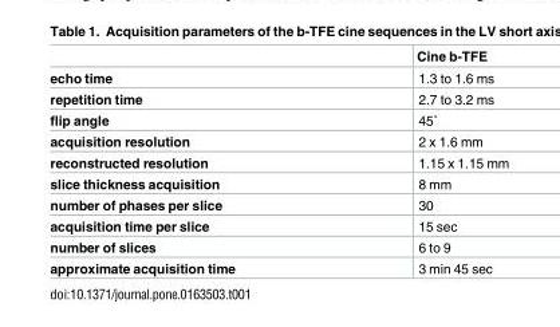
<table><thead><tr><td></td><td>Cine b-TFE</td></tr></thead><tbody><tr><td>echo time</td><td>1.3 to 1.6 ms</td></tr><tr><td>repetition time</td><td>2.7 to 3.2 ms</td></tr><tr><td>flip angle</td><td>45˚</td></tr><tr><td>acquisition resolution</td><td>2 x 1.6 mm</td></tr><tr><td>reconstructed resolution</td><td>1.15 x 1.15 mm</td></tr><tr><td>slice thickness acquisition</td><td>8 mm</td></tr><tr><td>number of phases per slice</td><td>30</td></tr><tr><td>acquisition time per slice</td><td>15 sec</td></tr><tr><td>number of slices</td><td>6 to 9</td></tr><tr><td>approximate acquisition time</td><td>3 min 45 sec</td></tr></tbody></table>